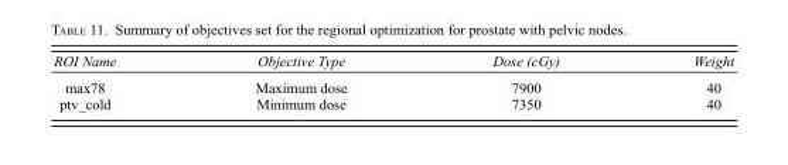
<table><thead><tr><td>ROI Name</td><td>Objective Type</td><td>Dose (cGy)</td><td>Weight</td></tr></thead><tbody><tr><td>max78</td><td>Maximum dose</td><td>7900</td><td>40</td></tr><tr><td>ptv_cold</td><td>Minimum dose</td><td>7350</td><td>40</td></tr></tbody></table>